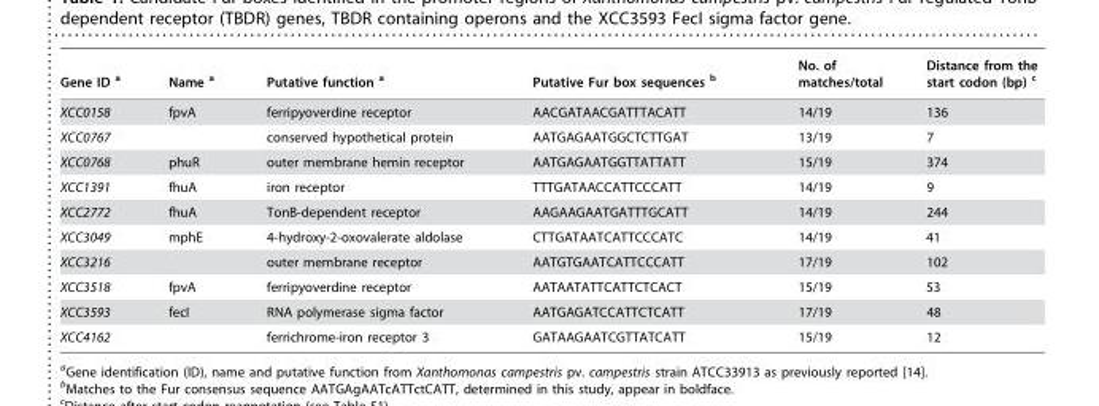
<table><thead><tr><td>Gene ID a</td><td>Name a</td><td>Putative function a</td><td>Putative Fur box sequences b</td><td>No. of matches/total</td><td>Distance from the start codon (bp) c</td></tr></thead><tbody><tr><td>XCC0158</td><td>fpvA</td><td>ferripyoverdine receptor</td><td>AACGATAACGATTTACATT</td><td>14/19</td><td>136</td></tr><tr><td>XCC0767</td><td></td><td>conserved hypothetical protein</td><td>AATGAGAATGGCTCTTGAT</td><td>13/19</td><td>7</td></tr><tr><td>XCC0768</td><td>phuR</td><td>outer membrane hemin receptor</td><td>AATGAGAATGGTTATTATT</td><td>15/19</td><td>374</td></tr><tr><td>XCC1391</td><td>fhuA</td><td>iron receptor</td><td>TTTGATAACCATTCCCATT</td><td>14/19</td><td>9</td></tr><tr><td>XCC2772</td><td>fhuA</td><td>TonB-dependent receptor</td><td>AAGAAGAATGATTTGCATT</td><td>14/19</td><td>244</td></tr><tr><td>XCC3049</td><td>mphE</td><td>4-hydroxy-2-oxovalerate aldolase</td><td>CTTGATAATCATTCCCATC</td><td>14/19</td><td>41</td></tr><tr><td>XCC3216</td><td></td><td>outer membrane receptor</td><td>AATGTGAATCATTCCCATT</td><td>17/19</td><td>102</td></tr><tr><td>XCC3518</td><td>fpvA</td><td>ferripyoverdine receptor</td><td>AATAATATTCATTCTCACT</td><td>15/19</td><td>53</td></tr><tr><td>XCC3593</td><td>fecI</td><td>RNA polymerase sigma factor</td><td>AATGAGATCCATTCTCATT</td><td>17/19</td><td>48</td></tr><tr><td>XCC4162</td><td></td><td>ferrichrome-iron receptor 3</td><td>GATAAGAATCGTTATCATT</td><td>15/19</td><td>12</td></tr></tbody></table>